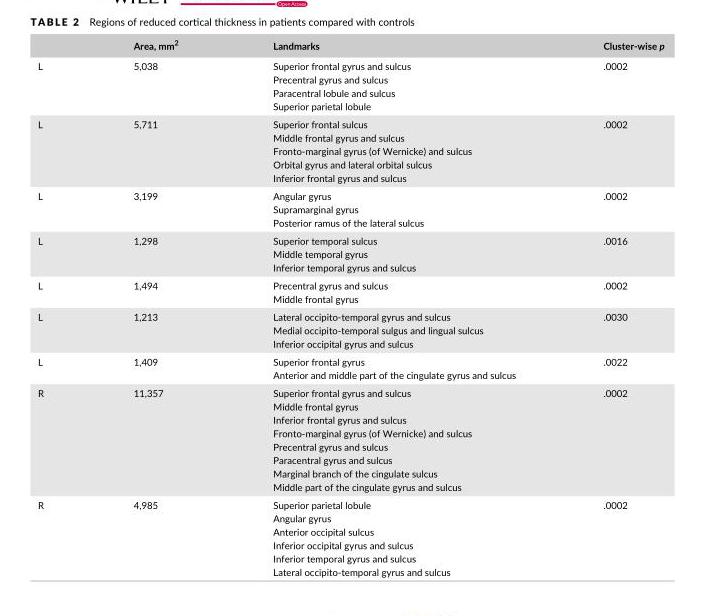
<table><thead><tr><td></td><td>Area, mm<sup>2</sup></td><td>Landmarks</td><td>Cluster- wise p</td></tr></thead><tbody><tr><td>L</td><td>5,038</td><td>Superior frontal gyrus and sulcus Precentral gyrus and sulcus Paracentral lobule and sulcus Superior parietal lobule</td><td>.0002</td></tr><tr><td>L</td><td>5,711</td><td>Superior frontal sulcus Middle frontal gyrus and sulcus Fronto- marginal gyrus (of Wernicke) and sulcus Orbital gyrus and lateral orbital sulcus Inferior frontal gyrus and sulcus</td><td>.0002</td></tr><tr><td>L</td><td>3,199</td><td>Angular gyrus Supramarginal gyrus Posterior ramus of the lateral sulcus</td><td>.0002</td></tr><tr><td>L</td><td>1,298</td><td>Superior temporal sulcus Middle temporal gyrus Inferior temporal gyrus and sulcus</td><td>.0016</td></tr><tr><td>L</td><td>1,494</td><td>Precentral gyrus and sulcus Middle frontal gyrus</td><td>.0002</td></tr><tr><td>L</td><td>1,213</td><td>Lateral occipito- temporal gyrus and sulcus Medial occipito- temporal sulgus and lingual sulcus Inferior occipital gyrus and sulcus</td><td>.0030</td></tr><tr><td>L</td><td>1,409</td><td>Superior frontal gyrus Anterior and middle part of the cingulate gyrus and sulcus</td><td>.0022</td></tr><tr><td>R</td><td>11,357</td><td>Superior frontal gyrus and sulcus Middle frontal gyrus Inferior frontal gyrus and sulcus Fronto- marginal gyrus (of Wernicke) and sulcus Precentral gyrus and sulcus Paracentral gyrus and sulcus Marginal branch of the cingulate sulcus Middle part of the cingulate gyrus and sulcus</td><td>.0002</td></tr><tr><td>R</td><td>4,985</td><td>Superior parietal lobule Angular gyrus Anterior occipital sulcus Inferior occipital gyrus and sulcus Inferior temporal gyrus and sulcus Lateral occipito- temporal gyrus and sulcus</td><td>.0002</td></tr></tbody></table>